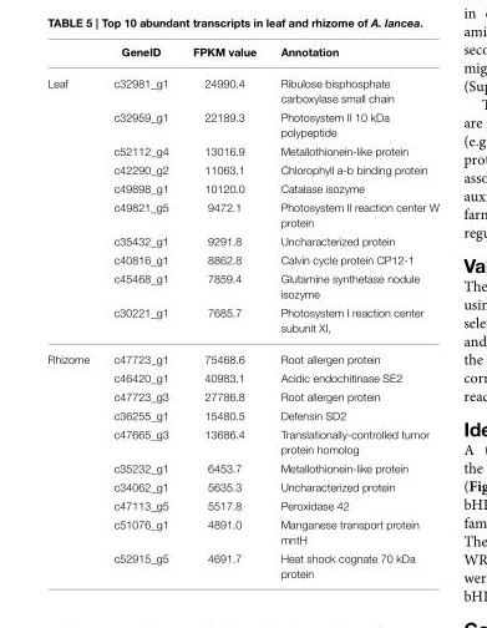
<table><thead><tr><td></td><td>GeneID</td><td>FPKM value</td><td>Annotation</td></tr></thead><tbody><tr><td rowspan="10">Leaf</td><td>c32981_g1</td><td>24990.4</td><td>Ribulose bisphosphate carboxylase small chain</td></tr><tr><td>c32959_g1</td><td>22189.3</td><td>Photosystem II 10 kDa polypeptide</td></tr><tr><td>c52112_g4</td><td>13016.9</td><td>Metallothionein-like protein</td></tr><tr><td>c42290_g2</td><td>11063.1</td><td>Chlorophyll a-b binding protein</td></tr><tr><td>c49898_g1</td><td>10120.0</td><td>Catalase isozyme</td></tr><tr><td>c49821_g5</td><td>9472.1</td><td>Photosystem II reaction center W protein</td></tr><tr><td>c35432_g1</td><td>9291.8</td><td>Uncharacterized protein</td></tr><tr><td>c40816_g1</td><td>8862.8</td><td>Calvin cycle protein CP12-1</td></tr><tr><td>c45468_g1</td><td>7859.4</td><td>Glutamine synthetase nodule isozyme</td></tr><tr><td>c30221_g1</td><td>7685.7</td><td>Photosystem I reaction center subunit XI,</td></tr><tr><td rowspan="10">Rhizome</td><td>c47723_g1</td><td>75468.6</td><td>Root allergen protein</td></tr><tr><td>c46420_g1</td><td>40983.1</td><td>Acidic endochitinase SE2</td></tr><tr><td>c47723_g3</td><td>27786.8</td><td>Root allergen protein</td></tr><tr><td>c36255_g1</td><td>15480.5</td><td>Defensin SD2</td></tr><tr><td>c47665_g3</td><td>13686.4</td><td>Translationally-controlled tumor protein homolog</td></tr><tr><td>c35232_g1</td><td>6453.7</td><td>Metallothionein-like protein</td></tr><tr><td>c34062_g1</td><td>5635.3</td><td>Uncharacterized protein</td></tr><tr><td>c47113_g5</td><td>5517.8</td><td>Peroxidase 42</td></tr><tr><td>c51076_g1</td><td>4891.0</td><td>Manganese transport protein mntH</td></tr><tr><td>c52915_g5</td><td>4691.7</td><td>Heat shock cognate 70 kDa protein</td></tr></tbody></table>